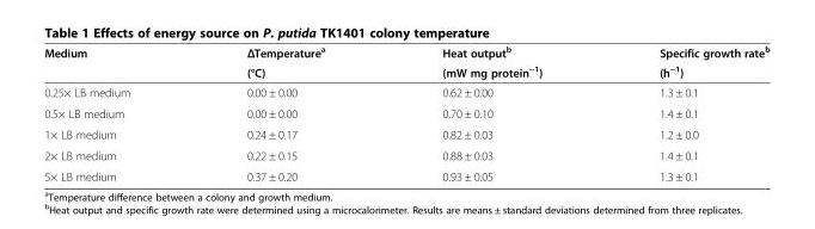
<table><thead><tr><td rowspan="2">Medium</td><td rowspan="2">ΔTemperature<sup>a</sup> (°C)</td><td rowspan="2">Heat output<sup>b</sup> (mW mg protein<sup>−1</sup>)</td><td rowspan="2">Specific growth rate<sup>b</sup> (h<sup>−1</sup>)</td></tr><tr></tr></thead><tbody><tr><td>0.25× LB medium</td><td>0.00 ± 0.00</td><td>0.62 ± 0.00</td><td>1.3 ± 0.1</td></tr><tr><td>0.5× LB medium</td><td>0.00 ± 0.00</td><td>0.70 ± 0.10</td><td>1.4 ± 0.1</td></tr><tr><td>1× LB medium</td><td>0.24 ± 0.17</td><td>0.82 ± 0.03</td><td>1.2 ± 0.0</td></tr><tr><td>2× LB medium</td><td>0.22 ± 0.15</td><td>0.88 ± 0.03</td><td>1.4 ± 0.1</td></tr><tr><td>5× LB medium</td><td>0.37 ± 0.20</td><td>0.93 ± 0.05</td><td>1.3 ± 0.1</td></tr></tbody></table>